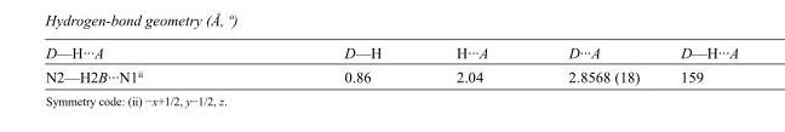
<table><tbody><tr><td>D—H···A</td><td>D—H</td><td>H···A</td><td>D···A</td><td>D—H···A</td></tr><tr><td>N2—H2B···N1<sup>ii</sup></td><td>0.86</td><td>2.04</td><td>2.8568 (18)</td><td>159</td></tr></tbody></table>